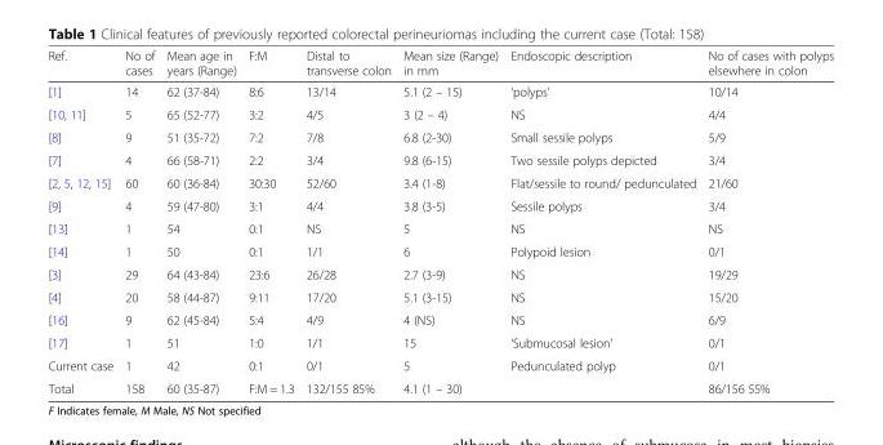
<table><thead><tr><td>Ref.</td><td>No of cases</td><td>Mean age in years (Range)</td><td>F:M</td><td>Distal to transverse colon</td><td>Mean size (Range) in mm</td><td>Endoscopic description</td><td>No of cases with polyps elsewhere in colon</td></tr></thead><tbody><tr><td>[1]</td><td>14</td><td>62 (37-84)</td><td>8:6</td><td>13/14</td><td>5.1 (2 – 15)</td><td>‘polyps’</td><td>10/14</td></tr><tr><td>[10, 11]</td><td>5</td><td>65 (52-77)</td><td>3:2</td><td>4/5</td><td>3 (2 – 4)</td><td>NS</td><td>4/4</td></tr><tr><td>[8]</td><td>9</td><td>51 (35-72)</td><td>7:2</td><td>7/8</td><td>6.8 (2-30)</td><td>Small sessile polyps</td><td>5/9</td></tr><tr><td>[7]</td><td>4</td><td>66 (58-71)</td><td>2:2</td><td>3/4</td><td>9.8 (6-15)</td><td>Two sessile polyps depicted</td><td>3/4</td></tr><tr><td>[2, 5, 12, 15]</td><td>60</td><td>60 (36-84)</td><td>30:30</td><td>52/60</td><td>3.4 (1-8)</td><td>Flat/sessile to round/ pedunculated</td><td>21/60</td></tr><tr><td>[9]</td><td>4</td><td>59 (47-80)</td><td>3:1</td><td>4/4</td><td>3.8 (3-5)</td><td>Sessile polyps</td><td>3/4</td></tr><tr><td>[13]</td><td>1</td><td>54</td><td>0:1</td><td>NS</td><td>5</td><td>NS</td><td>NS</td></tr><tr><td>[14]</td><td>1</td><td>50</td><td>0:1</td><td>1/1</td><td>6</td><td>Polypoid lesion</td><td>0/1</td></tr><tr><td>[3]</td><td>29</td><td>64 (43-84)</td><td>23:6</td><td>26/28</td><td>2.7 (3-9)</td><td>NS</td><td>19/29</td></tr><tr><td>[4]</td><td>20</td><td>58 (44-87)</td><td>9:11</td><td>17/20</td><td>5.1 (3-15)</td><td>NS</td><td>15/20</td></tr><tr><td>[16]</td><td>9</td><td>62 (45-84)</td><td>5:4</td><td>4/9</td><td>4 (NS)</td><td>NS</td><td>6/9</td></tr><tr><td>[17]</td><td>1</td><td>51</td><td>1:0</td><td>1/1</td><td>15</td><td>‘Submucosal lesion’</td><td>0/1</td></tr><tr><td>Current case</td><td>1</td><td>42</td><td>0:1</td><td>0/1</td><td>5</td><td>Pedunculated polyp</td><td>0/1</td></tr><tr><td>Total</td><td>158</td><td>60 (35-87)</td><td>F:M = 1.3</td><td>132/155 85%</td><td>4.1 (1 – 30)</td><td></td><td>86/156 55%</td></tr></tbody></table>